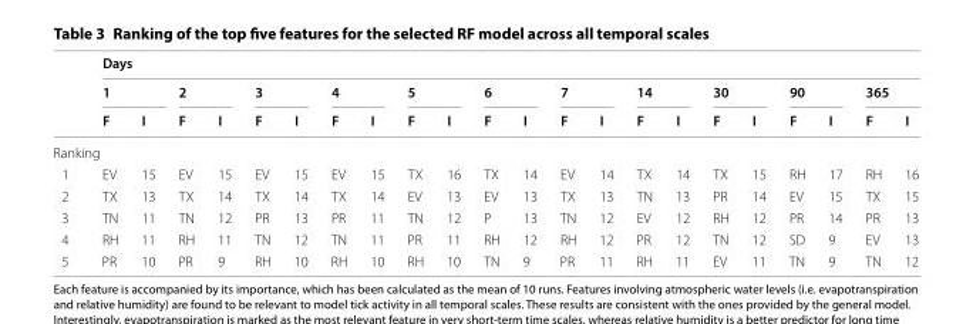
<table><thead><tr><td rowspan="3"></td><td colspan="22">Days</td></tr><tr><td colspan="2">1</td><td colspan="2">2</td><td colspan="2">3</td><td colspan="2">4</td><td colspan="2">5</td><td colspan="2">6</td><td colspan="2">7</td><td colspan="2">14</td><td colspan="2">30</td><td colspan="2">90</td><td colspan="2">365</td></tr><tr><td>F</td><td>I</td><td>F</td><td>I</td><td>F</td><td>I</td><td>F</td><td>I</td><td>F</td><td>I</td><td>F</td><td>I</td><td>F</td><td>I</td><td>F</td><td>I</td><td>F</td><td>I</td><td>F</td><td>I</td><td>F</td><td>I</td></tr></thead><tbody><tr><td colspan="23">Ranking</td></tr><tr><td>1</td><td>EV</td><td>15</td><td>EV</td><td>15</td><td>EV</td><td>15</td><td>EV</td><td>15</td><td>TX</td><td>16</td><td>TX</td><td>14</td><td>EV</td><td>14</td><td>TX</td><td>14</td><td>TX</td><td>15</td><td>RH</td><td>17</td><td>RH</td><td>16</td></tr><tr><td>2</td><td>TX</td><td>13</td><td>TX</td><td>14</td><td>TX</td><td>14</td><td>TX</td><td>14</td><td>EV</td><td>13</td><td>EV</td><td>13</td><td>TX</td><td>13</td><td>TN</td><td>13</td><td>PR</td><td>14</td><td>EV</td><td>15</td><td>TX</td><td>15</td></tr><tr><td>3</td><td>TN</td><td>11</td><td>TN</td><td>12</td><td>PR</td><td>13</td><td>PR</td><td>11</td><td>TN</td><td>12</td><td>P</td><td>13</td><td>TN</td><td>12</td><td>EV</td><td>12</td><td>RH</td><td>12</td><td>PR</td><td>14</td><td>PR</td><td>13</td></tr><tr><td>4</td><td>RH</td><td>11</td><td>RH</td><td>11</td><td>TN</td><td>12</td><td>TN</td><td>11</td><td>PR</td><td>11</td><td>RH</td><td>12</td><td>RH</td><td>12</td><td>PR</td><td>12</td><td>TN</td><td>12</td><td>SD</td><td>9</td><td>EV</td><td>13</td></tr><tr><td>5</td><td>PR</td><td>10</td><td>PR</td><td>9</td><td>RH</td><td>10</td><td>RH</td><td>10</td><td>RH</td><td>10</td><td>TN</td><td>9</td><td>PR</td><td>11</td><td>RH</td><td>11</td><td>EV</td><td>11</td><td>TN</td><td>9</td><td>TN</td><td>12</td></tr></tbody></table>